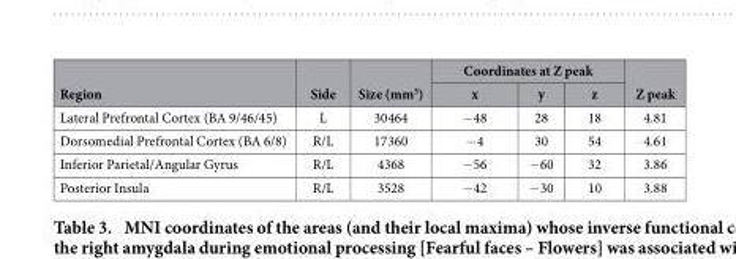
<table><thead><tr><td rowspan="2">Region</td><td rowspan="2">Side</td><td rowspan="2">Size (mm<sup>3</sup>)</td><td colspan="3">Coordinates at Z peak</td><td rowspan="2">Z peak</td></tr><tr><td>x</td><td>y</td><td>z</td></tr></thead><tbody><tr><td>Lateral Prefrontal Cortex (BA 9/46/45)</td><td>L</td><td>30464</td><td>− 48</td><td>28</td><td>18</td><td>4.81</td></tr><tr><td>Dorsomedial Prefrontal Cortex (BA 6/8)</td><td>R/L</td><td>17360</td><td>− 4</td><td>30</td><td>54</td><td>4.61</td></tr><tr><td>Inferior Parietal/Angular Gyrus</td><td>R/L</td><td>4368</td><td>− 56</td><td>− 60</td><td>32</td><td>3.86</td></tr><tr><td>Posterior Insula</td><td>R/L</td><td>3528</td><td>− 42</td><td>− 30</td><td>10</td><td>3.88</td></tr></tbody></table>